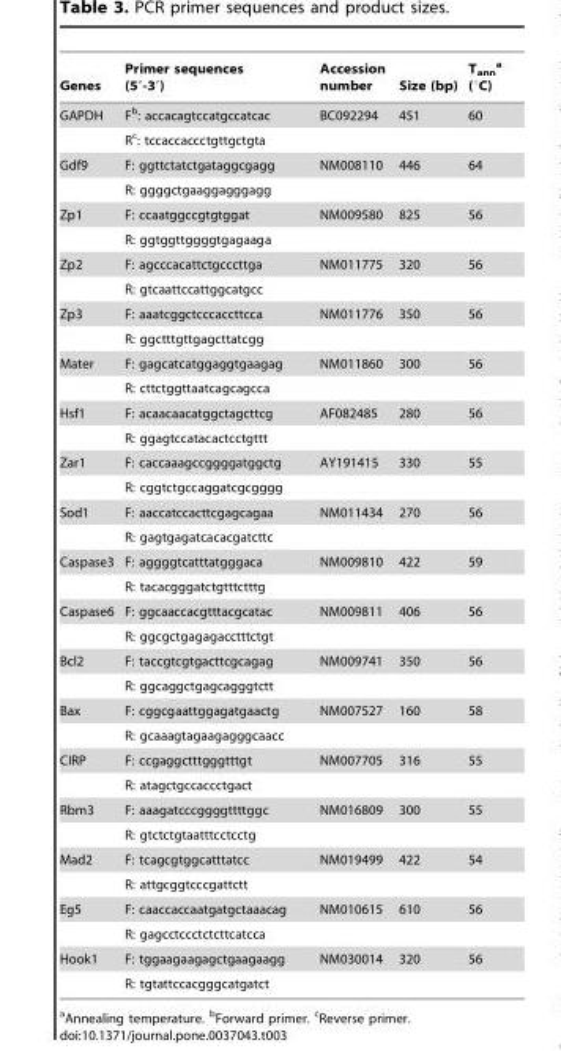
<table><thead><tr><td>Genes</td><td>Primer sequences (5′-3′)</td><td>Accession number</td><td>Size (bp)</td><td>T<sub>ann</sub> a (°C)</td></tr></thead><tbody><tr><td rowspan="2">GAPDH</td><td>F<sup>b</sup>: accacagtccatgccatcac</td><td>BC092294</td><td>451</td><td>60</td></tr><tr><td>R<sup>c</sup>: tccaccaccctgttgctgta</td><td></td><td></td><td></td></tr><tr><td rowspan="2">Gdf9</td><td>F: ggttctatctgataggcgagg</td><td>NM008110</td><td>446</td><td>64</td></tr><tr><td>R: ggggctgaaggagggagg</td><td></td><td></td><td></td></tr><tr><td rowspan="2">Zp1</td><td>F: ccaatggccgtgtggat</td><td>NM009580</td><td>825</td><td>56</td></tr><tr><td>R: ggtggttggggtgagaaga</td><td></td><td></td><td></td></tr><tr><td rowspan="2">Zp2</td><td>F: agcccacattctgcccttga</td><td>NM011775</td><td>320</td><td>56</td></tr><tr><td>R: gtcaattccattggcatgcc</td><td></td><td></td><td></td></tr><tr><td rowspan="2">Zp3</td><td>F: aaatcggctcccaccttcca</td><td>NM011776</td><td>350</td><td>56</td></tr><tr><td>R: ggctttgttgagcttatcgg</td><td></td><td></td><td></td></tr><tr><td rowspan="2">Mater</td><td>F: gagcatcatggaggtgaagag</td><td>NM011860</td><td>300</td><td>56</td></tr><tr><td>R: cttctggttaatcagcagcca</td><td></td><td></td><td></td></tr><tr><td rowspan="2">Hsf1</td><td>F: acaacaacatggctagcttcg</td><td>AF082485</td><td>280</td><td>56</td></tr><tr><td>R: ggagtccatacactcctgttt</td><td></td><td></td><td></td></tr><tr><td rowspan="2">Zar1</td><td>F: caccaaagccggggatggctg</td><td>AY191415</td><td>330</td><td>55</td></tr><tr><td>R: cggtctgccaggatcgcgggg</td><td></td><td></td><td></td></tr><tr><td rowspan="2">Sod1</td><td>F: aaccatccacttcgagcagaa</td><td>NM011434</td><td>270</td><td>56</td></tr><tr><td>R: gagtgagatcacacgatcttc</td><td></td><td></td><td></td></tr><tr><td rowspan="2">Caspase3</td><td>F: aggggtcatttatgggaca</td><td>NM009810</td><td>422</td><td>59</td></tr><tr><td>R: tacacgggatctgtttctttg</td><td></td><td></td><td></td></tr><tr><td rowspan="2">Caspase6</td><td>F: ggcaaccacgtttacgcatac</td><td>NM009811</td><td>406</td><td>56</td></tr><tr><td>R: ggcgctgagagacctttctgt</td><td></td><td></td><td></td></tr><tr><td rowspan="2">Bcl2</td><td>F: taccgtcgtgacttcgcagag</td><td>NM009741</td><td>350</td><td>56</td></tr><tr><td>R: ggcaggctgagcagggtctt</td><td></td><td></td><td></td></tr><tr><td rowspan="2">Bax</td><td>F: cggcgaattggagatgaactg</td><td>NM007527</td><td>160</td><td>58</td></tr><tr><td>R: gcaaagtagaagagggcaacc</td><td></td><td></td><td></td></tr><tr><td rowspan="2">CIRP</td><td>F: ccgaggctttgggtttgt</td><td>NM007705</td><td>316</td><td>55</td></tr><tr><td>R: atagctgccaccctgact</td><td></td><td></td><td></td></tr><tr><td rowspan="2">Rbm3</td><td>F: aaagatcccggggttttggc</td><td>NM016809</td><td>300</td><td>55</td></tr><tr><td>R: gtctctgtaatttcctcctg</td><td></td><td></td><td></td></tr><tr><td rowspan="2">Mad2</td><td>F: tcagcgtggcatttatcc</td><td>NM019499</td><td>422</td><td>54</td></tr><tr><td>R: attgcggtcccgattctt</td><td></td><td></td><td></td></tr><tr><td rowspan="2">Eg5</td><td>F: caaccaccaatgatgctaaacag</td><td>NM010615</td><td>610</td><td>56</td></tr><tr><td>R: gagcctccctctcttcatcca</td><td></td><td></td><td></td></tr><tr><td rowspan="2">Hook1</td><td>F: tggaagaagagctgaagaagg</td><td>NM030014</td><td>320</td><td>56</td></tr><tr><td>R: tgtattccacgggcatgatct</td><td></td><td></td><td></td></tr></tbody></table>